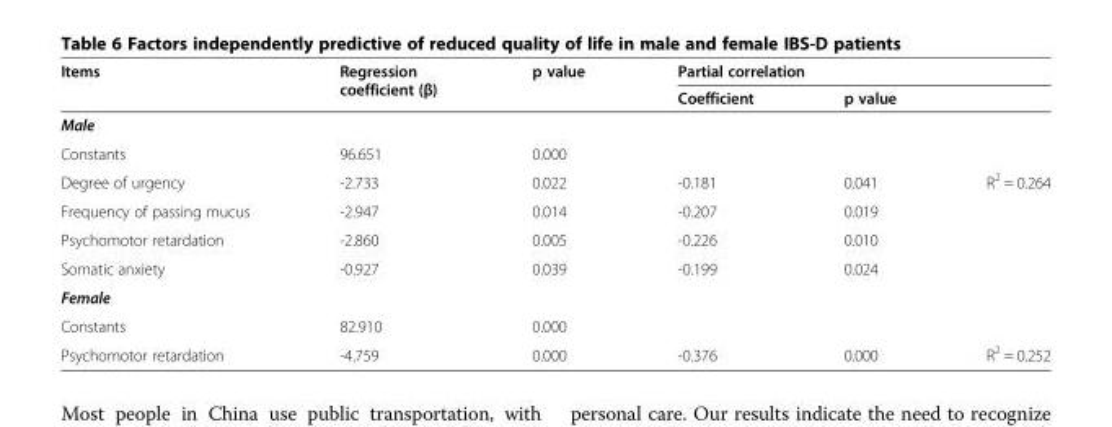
<table><thead><tr><td rowspan="2">Items</td><td rowspan="2">Regression coefficient (β)</td><td rowspan="2">p value</td><td colspan="3">Partial correlation</td></tr><tr><td>Coefficient</td><td>p value</td><td></td></tr></thead><tbody><tr><td colspan="5">Male</td><td rowspan="2"></td></tr><tr><td>Constants</td><td>96.651</td><td>0.000</td><td></td><td></td></tr><tr><td>Degree of urgency</td><td>-2.733</td><td>0.022</td><td>-0.181</td><td>0.041</td><td rowspan="4">R<sup>2</sup> = 0.264</td></tr><tr><td>Frequency of passing mucus</td><td>-2.947</td><td>0.014</td><td>-0.207</td><td>0.019</td></tr><tr><td>Psychomotor retardation</td><td>-2.860</td><td>0.005</td><td>-0.226</td><td>0.010</td></tr><tr><td>Somatic anxiety</td><td>-0.927</td><td>0.039</td><td>-0.199</td><td>0.024</td></tr><tr><td colspan="5">Female</td><td rowspan="2"></td></tr><tr><td>Constants</td><td>82.910</td><td>0.000</td><td></td><td></td></tr><tr><td>Psychomotor retardation</td><td>-4.759</td><td>0.000</td><td>-0.376</td><td>0.000</td><td>R<sup>2</sup> = 0.252</td></tr></tbody></table>